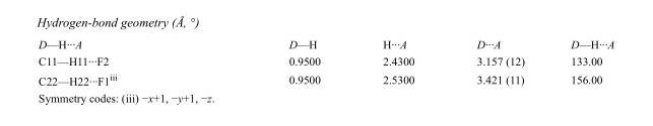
<table><tbody><tr><td>D—H···A</td><td>D—H</td><td>H···A</td><td>D···A</td><td>D—H···A</td></tr><tr><td>C11—H11···F2</td><td>0.9500</td><td>2.4300</td><td>3.157 (12)</td><td>133.00</td></tr><tr><td>C22—H22···F1<sup>iii</sup></td><td>0.9500</td><td>2.5300</td><td>3.421 (11)</td><td>156.00</td></tr></tbody></table>